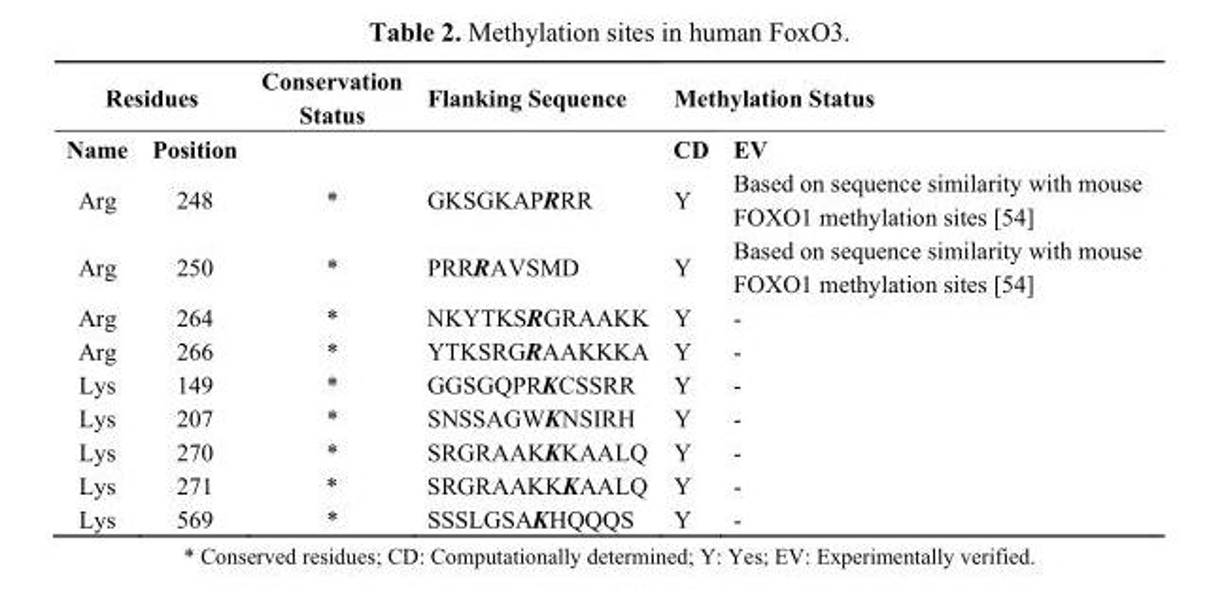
<table><thead><tr><td colspan="2">Residues</td><td rowspan="2">Conservation Status</td><td rowspan="2">Flanking Sequence</td><td colspan="2">Methylation Status</td></tr><tr><td>Name</td><td>Position</td><td>CD</td><td>EV</td></tr></thead><tbody><tr><td>Arg</td><td>248</td><td>*</td><td>GKSGKAPRRR</td><td>Y</td><td>Based on sequence similarity with mouse FOXO1 methylation sites [54]</td></tr><tr><td>Arg</td><td>250</td><td>*</td><td>PRRRAVSMD</td><td>Y</td><td>Based on sequence similarity with mouse FOXO1 methylation sites [54]</td></tr><tr><td>Arg</td><td>264</td><td>*</td><td>NKYTKSRGRAAKK</td><td>Y</td><td>-</td></tr><tr><td>Arg</td><td>266</td><td>*</td><td>YTKSRGRAAKKKA</td><td>Y</td><td>-</td></tr><tr><td>Lys</td><td>149</td><td>*</td><td>GGSGQPRKCSSRR</td><td>Y</td><td>-</td></tr><tr><td>Lys</td><td>207</td><td>*</td><td>SNSSAGWKNSIRH</td><td>Y</td><td>-</td></tr><tr><td>Lys</td><td>270</td><td>*</td><td>SRGRAAKKKAALQ</td><td>Y</td><td>-</td></tr><tr><td>Lys</td><td>271</td><td>*</td><td>SRGRAAKKKAALQ</td><td>Y</td><td>-</td></tr><tr><td>Lys</td><td>569</td><td>*</td><td>SSSLGSAKHQQQS</td><td>Y</td><td>-</td></tr></tbody></table>